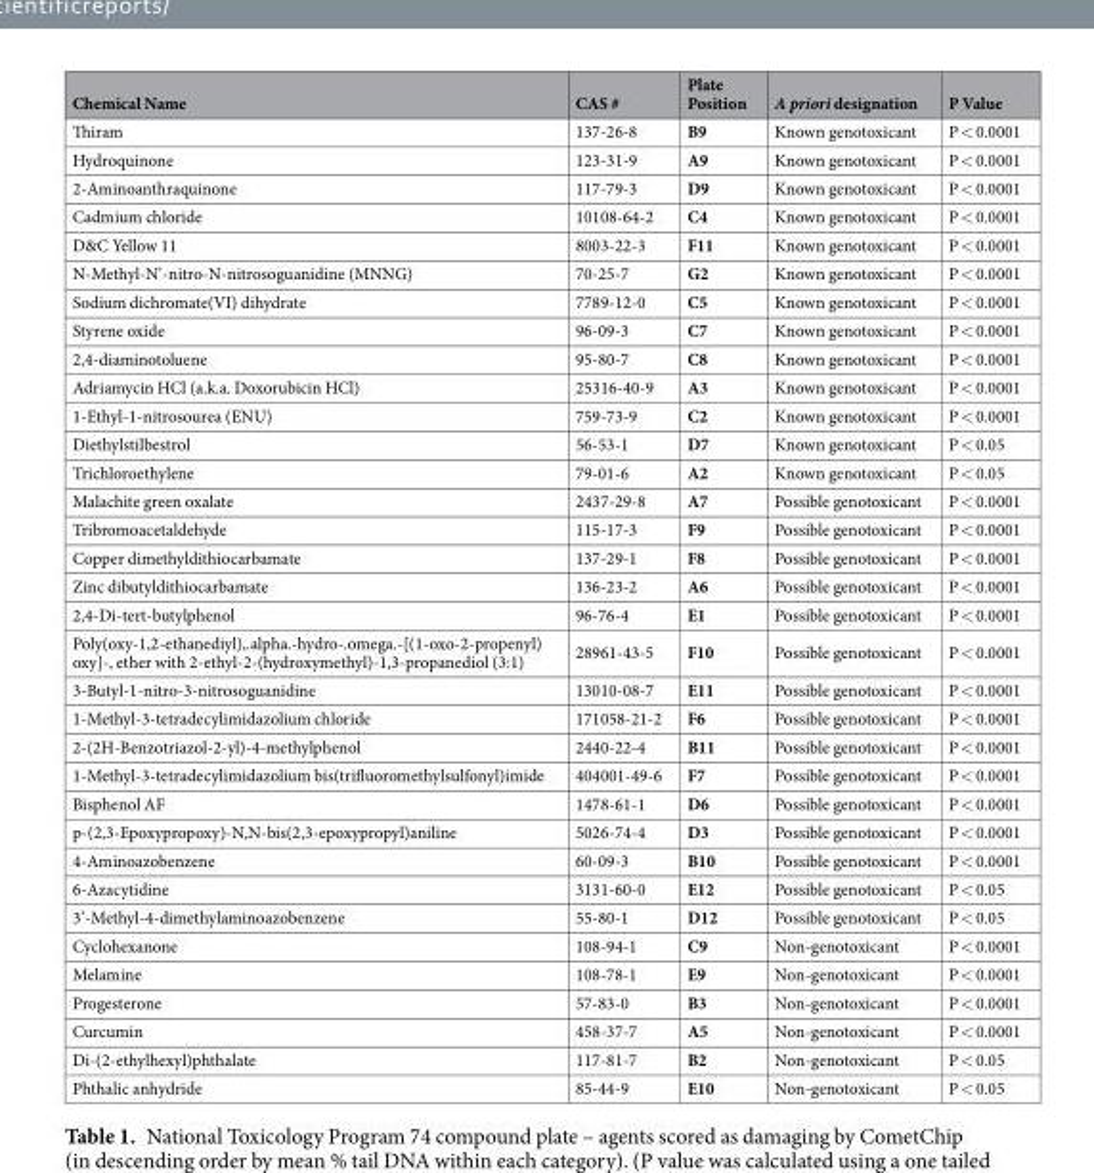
<table><thead><tr><td>Chemical Name</td><td>CAS #</td><td>Plate Position</td><td>A priori designation</td><td>P Value</td></tr></thead><tbody><tr><td>Thiram</td><td>137-26-8</td><td>B9</td><td>Known genotoxicant</td><td>P &lt; 0.0001</td></tr><tr><td>Hydroquinone</td><td>123-31-9</td><td>A9</td><td>Known genotoxicant</td><td>P &lt; 0.0001</td></tr><tr><td>2-Aminoanthraquinone</td><td>117-79-3</td><td>D9</td><td>Known genotoxicant</td><td>P &lt; 0.0001</td></tr><tr><td>Cadmium chloride</td><td>10108-64-2</td><td>C4</td><td>Known genotoxicant</td><td>P &lt; 0.0001</td></tr><tr><td>D&amp;C Yellow 11</td><td>8003-22-3</td><td>F11</td><td>Known genotoxicant</td><td>P &lt; 0.0001</td></tr><tr><td>N-Methyl-N’-nitro-N-nitrosoguanidine (MNNG)</td><td>70-25-7</td><td>G2</td><td>Known genotoxicant</td><td>P &lt; 0.0001</td></tr><tr><td>Sodium dichromate(VI) dihydrate</td><td>7789-12-0</td><td>C5</td><td>Known genotoxicant</td><td>P &lt; 0.0001</td></tr><tr><td>Styrene oxide</td><td>96-09-3</td><td>C7</td><td>Known genotoxicant</td><td>P &lt; 0.0001</td></tr><tr><td>2,4-diaminotoluene</td><td>95-80-7</td><td>C8</td><td>Known genotoxicant</td><td>P &lt; 0.0001</td></tr><tr><td>Adriamycin HCl (a.k.a. Doxorubicin HCl)</td><td>25316-40-9</td><td>A3</td><td>Known genotoxicant</td><td>P &lt; 0.0001</td></tr><tr><td>1-Ethyl-1-nitrosourea (ENU)</td><td>759-73-9</td><td>C2</td><td>Known genotoxicant</td><td>P &lt; 0.0001</td></tr><tr><td>Diethylstilbestrol</td><td>56-53-1</td><td>D7</td><td>Known genotoxicant</td><td>P &lt; 0.05</td></tr><tr><td>Trichloroethylene</td><td>79-01-6</td><td>A2</td><td>Known genotoxicant</td><td>P &lt; 0.05</td></tr><tr><td>Malachite green oxalate</td><td>2437-29-8</td><td>A7</td><td>Possible genotoxicant</td><td>P &lt; 0.0001</td></tr><tr><td>Tribromoacetaldehyde</td><td>115-17-3</td><td>F9</td><td>Possible genotoxicant</td><td>P &lt; 0.0001</td></tr><tr><td>Copper dimethyldithiocarbamate</td><td>137-29-1</td><td>F8</td><td>Possible genotoxicant</td><td>P &lt; 0.0001</td></tr><tr><td>Zinc dibutyldithiocarbamate</td><td>136-23-2</td><td>A6</td><td>Possible genotoxicant</td><td>P &lt; 0.0001</td></tr><tr><td>2,4-Di-tert-butylphenol</td><td>96-76-4</td><td>E1</td><td>Possible genotoxicant</td><td>P &lt; 0.0001</td></tr><tr><td>Poly(oxy-1,2-ethanediyl),.alpha.-hydro-.omega.-[(1-oxo-2-propenyl) oxy]-, ether with 2-ethyl-2-(hydroxymethyl)-1,3-propanediol (3:1)</td><td>28961-43-5</td><td>F10</td><td>Possible genotoxicant</td><td>P &lt; 0.0001</td></tr><tr><td>3-Butyl-1-nitro-3-nitrosoguanidine</td><td>13010-08-7</td><td>E11</td><td>Possible genotoxicant</td><td>P &lt; 0.0001</td></tr><tr><td>1-Methyl-3-tetradecylimidazolium chloride</td><td>171058-21-2</td><td>F6</td><td>Possible genotoxicant</td><td>P &lt; 0.0001</td></tr><tr><td>2-(2H-Benzotriazol-2-yl)-4-methylphenol</td><td>2440-22-4</td><td>B11</td><td>Possible genotoxicant</td><td>P &lt; 0.0001</td></tr><tr><td>1-Methyl-3-tetradecylimidazolium bis(trifluoromethylsulfonyl)imide</td><td>404001-49-6</td><td>F7</td><td>Possible genotoxicant</td><td>P &lt; 0.0001</td></tr><tr><td>Bisphenol AF</td><td>1478-61-1</td><td>D6</td><td>Possible genotoxicant</td><td>P &lt; 0.0001</td></tr><tr><td>p-(2,3-Epoxypropoxy)-N,N-bis(2,3-epoxypropyl)aniline</td><td>5026-74-4</td><td>D3</td><td>Possible genotoxicant</td><td>P &lt; 0.0001</td></tr><tr><td>4-Aminoazobenzene</td><td>60-09-3</td><td>B10</td><td>Possible genotoxicant</td><td>P &lt; 0.0001</td></tr><tr><td>6-Azacytidine</td><td>3131-60-0</td><td>E12</td><td>Possible genotoxicant</td><td>P &lt; 0.05</td></tr><tr><td>3’-Methyl-4-dimethylaminoazobenzene</td><td>55-80-1</td><td>D12</td><td>Possible genotoxicant</td><td>P &lt; 0.05</td></tr><tr><td>Cyclohexanone</td><td>108-94-1</td><td>C9</td><td>Non-genotoxicant</td><td>P &lt; 0.0001</td></tr><tr><td>Melamine</td><td>108-78-1</td><td>E9</td><td>Non-genotoxicant</td><td>P &lt; 0.0001</td></tr><tr><td>Progesterone</td><td>57-83-0</td><td>B3</td><td>Non-genotoxicant</td><td>P &lt; 0.0001</td></tr><tr><td>Curcumin</td><td>458-37-7</td><td>A5</td><td>Non-genotoxicant</td><td>P &lt; 0.0001</td></tr><tr><td>Di-(2-ethylhexyl)phthalate</td><td>117-81-7</td><td>B2</td><td>Non-genotoxicant</td><td>P &lt; 0.05</td></tr><tr><td>Phthalic anhydride</td><td>85-44-9</td><td>E10</td><td>Non-genotoxicant</td><td>P &lt; 0.05</td></tr></tbody></table>